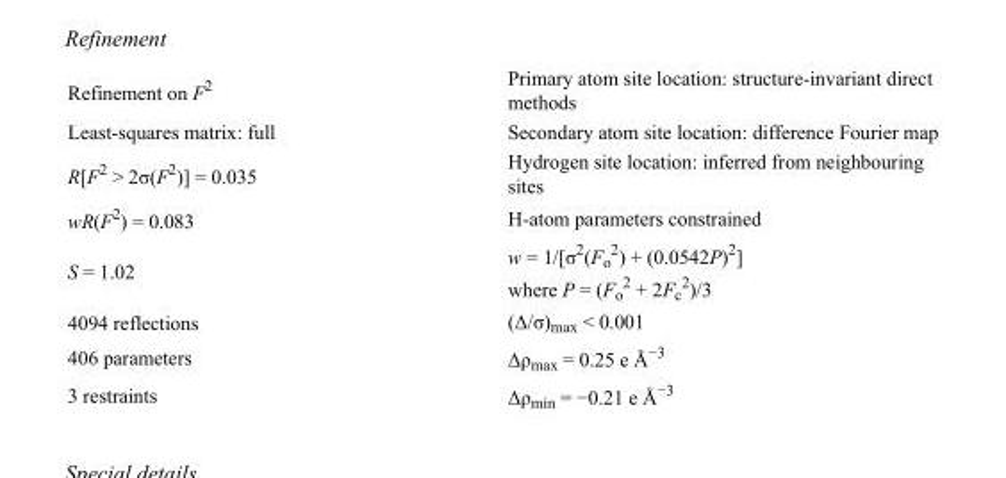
<table><tbody><tr><td>Refinement on F<sup>2</sup></td><td>Primary atom site location: structure-invariant direct methods</td></tr><tr><td>Least-squares matrix: full</td><td>Secondary atom site location: difference Fourier map</td></tr><tr><td>R[F<sup>2</sup> &gt; 2σ(F<sup>2</sup>)] = 0.035</td><td>Hydrogen site location: inferred from neighbouring sites</td></tr><tr><td>wR(F<sup>2</sup>) = 0.083</td><td>H-atom parameters constrained</td></tr><tr><td>S = 1.02</td><td>w = 1/[σ<sup>2</sup>(F<sub>o</sub> <sup>2</sup>) + (0.0542P)<sup>2</sup>] where P = (F<sub>o</sub> <sup>2</sup> + 2F<sub>c</sub> <sup>2</sup>)/3</td></tr><tr><td>4094 reflections</td><td>(Δ/σ)<sub>max</sub> &lt; 0.001</td></tr><tr><td>406 parameters</td><td>Δρ<sub>max</sub> = 0.25 e Å<sup>−3</sup></td></tr><tr><td>3 restraints</td><td>Δρ<sub>min</sub> = −0.21 e Å<sup>−3</sup></td></tr></tbody></table>